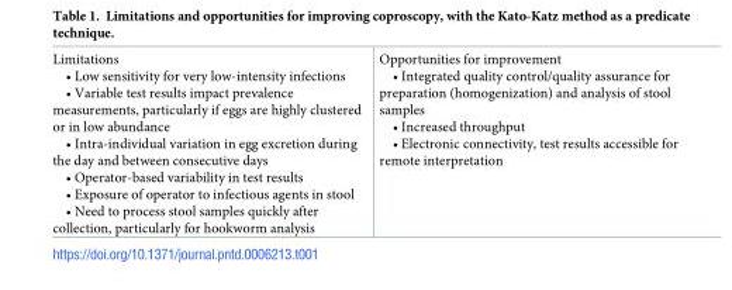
<table><tbody><tr><td>Limitations • Low sensitivity for very low-intensity infections • Variable test results impact prevalence measurements, particularly if eggs are highly clustered or in low abundance • Intra-individual variation in egg excretion during the day and between consecutive days • Operator-based variability in test results • Exposure of operator to infectious agents in stool • Need to process stool samples quickly after collection, particularly for hookworm analysis</td><td>Opportunities for improvement • Integrated quality control/quality assurance for preparation (homogenization) and analysis of stool samples • Increased throughput • Electronic connectivity, test results accessible for remote interpretation</td></tr></tbody></table>